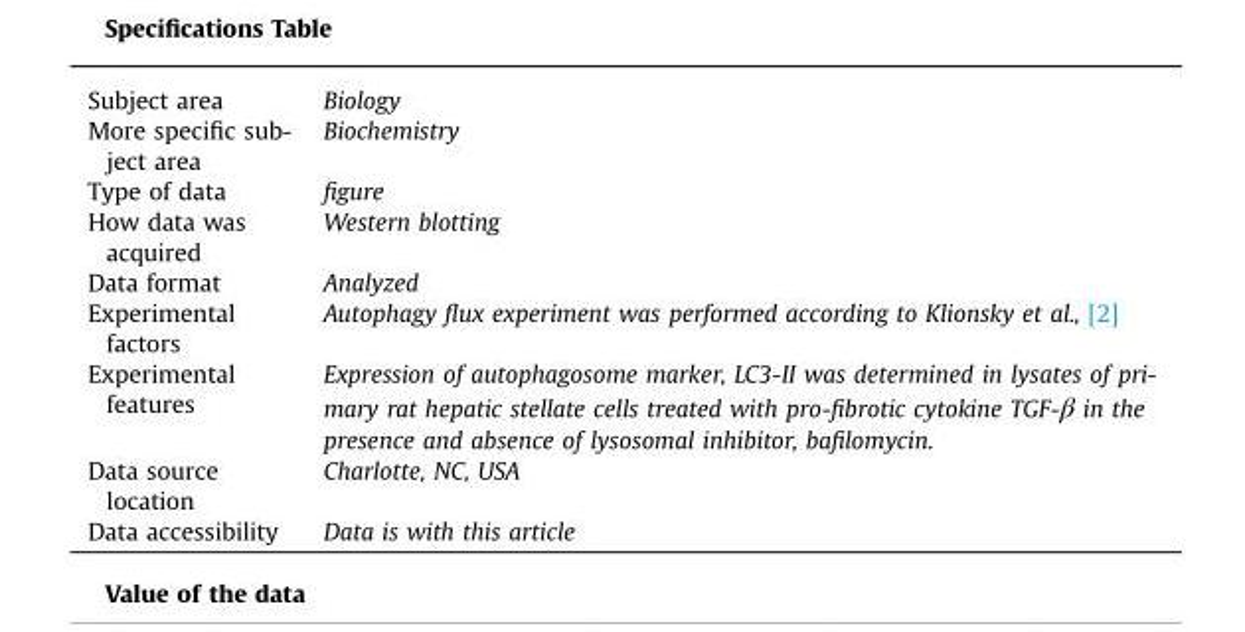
<table><thead><tr><td>Subject area</td><td>Biology</td></tr></thead><tbody><tr><td>More specific sub- ject area</td><td>Biochemistry</td></tr><tr><td>Type of data</td><td>figure</td></tr><tr><td>How data was acquired</td><td>Western blotting</td></tr><tr><td>Data format</td><td>Analyzed</td></tr><tr><td>Experimental factors</td><td>Autophagy flux experiment was performed according to Klionsky et al., [2]</td></tr><tr><td>Experimental features</td><td>Expression of autophagosome marker, LC3-II was determined in lysates of pri- mary rat hepatic stellate cells treated with pro-fibrotic cytokine TGF-β in the presence and absence of lysosomal inhibitor, bafilomycin.</td></tr><tr><td>Data source location</td><td>Charlotte, NC, USA</td></tr><tr><td>Data accessibility</td><td>Data is with this article</td></tr></tbody></table>